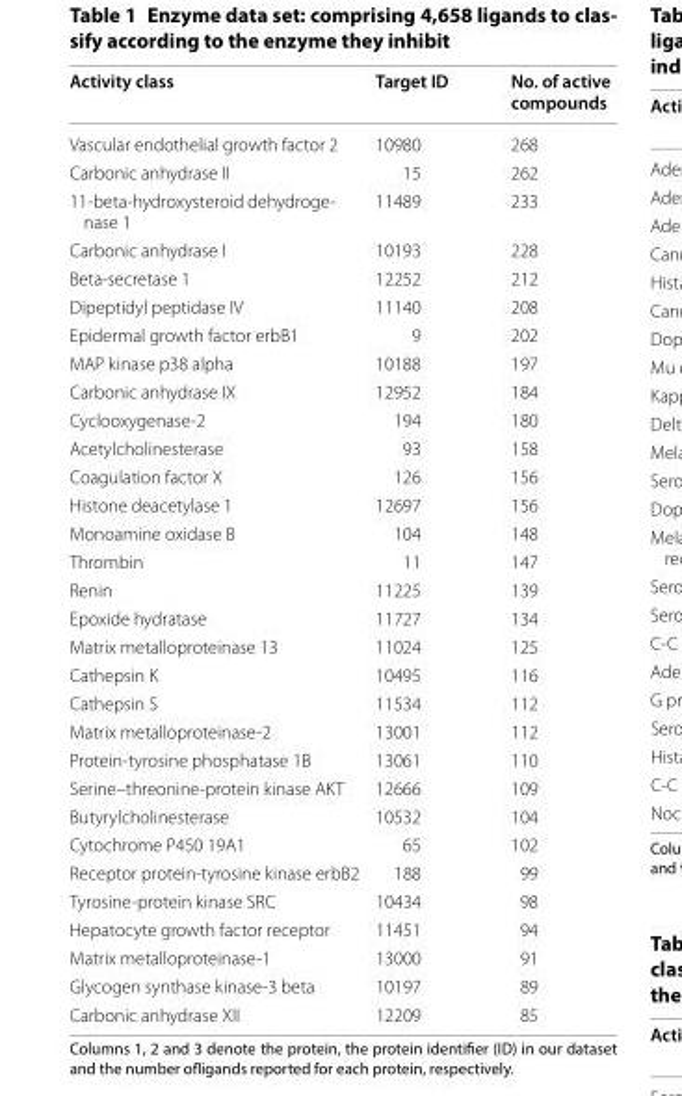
<table><thead><tr><td>Activity class</td><td>Target ID</td><td>No. of active compounds</td></tr></thead><tbody><tr><td>Vascular endothelial growth factor 2</td><td>10980</td><td>268</td></tr><tr><td>Carbonic anhydrase II</td><td>15</td><td>262</td></tr><tr><td>11-beta-hydroxysteroid dehydroge- nase 1</td><td>11489</td><td>233</td></tr><tr><td>Carbonic anhydrase I</td><td>10193</td><td>228</td></tr><tr><td>Beta-secretase 1</td><td>12252</td><td>212</td></tr><tr><td>Dipeptidyl peptidase IV</td><td>11140</td><td>208</td></tr><tr><td>Epidermal growth factor erbB1</td><td>9</td><td>202</td></tr><tr><td>MAP kinase p38 alpha</td><td>10188</td><td>197</td></tr><tr><td>Carbonic anhydrase IX</td><td>12952</td><td>184</td></tr><tr><td>Cyclooxygenase-2</td><td>194</td><td>180</td></tr><tr><td>Acetylcholinesterase</td><td>93</td><td>158</td></tr><tr><td>Coagulation factor X</td><td>126</td><td>156</td></tr><tr><td>Histone deacetylase 1</td><td>12697</td><td>156</td></tr><tr><td>Monoamine oxidase B</td><td>104</td><td>148</td></tr><tr><td>Thrombin</td><td>11</td><td>147</td></tr><tr><td>Renin</td><td>11225</td><td>139</td></tr><tr><td>Epoxide hydratase</td><td>11727</td><td>134</td></tr><tr><td>Matrix metalloproteinase 13</td><td>11024</td><td>125</td></tr><tr><td>Cathepsin K</td><td>10495</td><td>116</td></tr><tr><td>Cathepsin S</td><td>11534</td><td>112</td></tr><tr><td>Matrix metalloproteinase-2</td><td>13001</td><td>112</td></tr><tr><td>Protein-tyrosine phosphatase 1B</td><td>13061</td><td>110</td></tr><tr><td>Serine–threonine-protein kinase AKT</td><td>12666</td><td>109</td></tr><tr><td>Butyrylcholinesterase</td><td>10532</td><td>104</td></tr><tr><td>Cytochrome P450 19A1</td><td>65</td><td>102</td></tr><tr><td>Receptor protein-tyrosine kinase erbB2</td><td>188</td><td>99</td></tr><tr><td>Tyrosine-protein kinase SRC</td><td>10434</td><td>98</td></tr><tr><td>Hepatocyte growth factor receptor</td><td>11451</td><td>94</td></tr><tr><td>Matrix metalloproteinase-1</td><td>13000</td><td>91</td></tr><tr><td>Glycogen synthase kinase-3 beta</td><td>10197</td><td>89</td></tr><tr><td>Carbonic anhydrase XII</td><td>12209</td><td>85</td></tr></tbody></table>